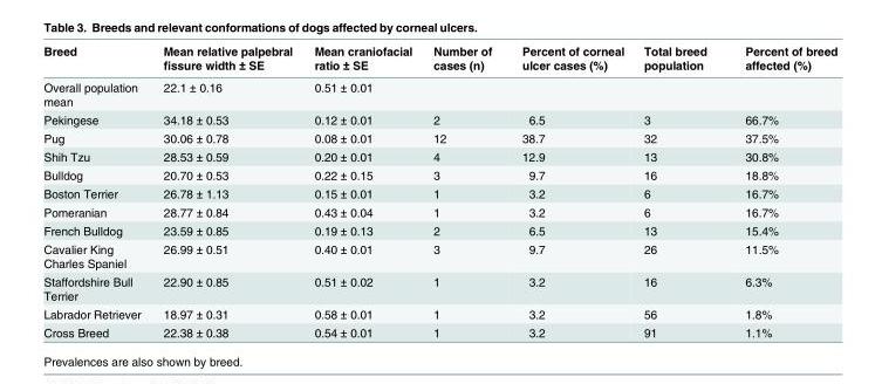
<table><thead><tr><td>Breed</td><td>Mean relative palpebral fissure width ± SE</td><td>Mean craniofacial ratio ± SE</td><td>Number of cases (n)</td><td>Percent of corneal ulcer cases (%)</td><td>Total breed population</td><td>Percent of breed affected (%)</td></tr></thead><tbody><tr><td>Overall population mean</td><td>22.1 ± 0.16</td><td>0.51 ± 0.01</td><td colspan="4"></td></tr><tr><td>Pekingese</td><td>34.18 ± 0.53</td><td>0.12 ± 0.01</td><td>2</td><td>6.5</td><td>3</td><td>66.7%</td></tr><tr><td>Pug</td><td>30.06 ± 0.78</td><td>0.08 ± 0.01</td><td>12</td><td>38.7</td><td>32</td><td>37.5%</td></tr><tr><td>Shih Tzu</td><td>28.53 ± 0.59</td><td>0.20 ± 0.01</td><td>4</td><td>12.9</td><td>13</td><td>30.8%</td></tr><tr><td>Bulldog</td><td>20.70 ± 0.53</td><td>0.22 ± 0.15</td><td>3</td><td>9.7</td><td>16</td><td>18.8%</td></tr><tr><td>Boston Terrier</td><td>26.78 ± 1.13</td><td>0.15 ± 0.01</td><td>1</td><td>3.2</td><td>6</td><td>16.7%</td></tr><tr><td>Pomeranian</td><td>28.77 ± 0.84</td><td>0.43 ± 0.04</td><td>1</td><td>3.2</td><td>6</td><td>16.7%</td></tr><tr><td>French Bulldog</td><td>23.59 ± 0.85</td><td>0.19 ± 0.13</td><td>2</td><td>6.5</td><td>13</td><td>15.4%</td></tr><tr><td>Cavalier King Charles Spaniel</td><td>26.99 ± 0.51</td><td>0.40 ± 0.01</td><td>3</td><td>9.7</td><td>26</td><td>11.5%</td></tr><tr><td>Staffordshire Bull Terrier</td><td>22.90 ± 0.85</td><td>0.51 ± 0.02</td><td>1</td><td>3.2</td><td>16</td><td>6.3%</td></tr><tr><td>Labrador Retriever</td><td>18.97 ± 0.31</td><td>0.58 ± 0.01</td><td>1</td><td>3.2</td><td>56</td><td>1.8%</td></tr><tr><td>Cross Breed</td><td>22.38 ± 0.38</td><td>0.54 ± 0.01</td><td>1</td><td>3.2</td><td>91</td><td>1.1%</td></tr></tbody></table>